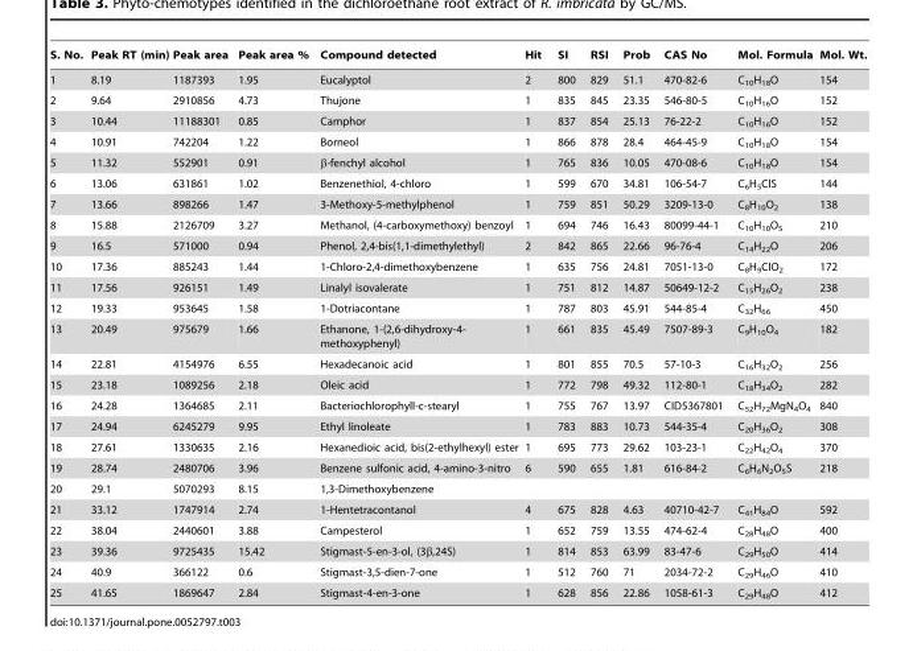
<table><thead><tr><td>S. No.</td><td>Peak RT (min)</td><td>Peak area</td><td>Peak area %</td><td>Compound detected</td><td>Hit</td><td>SI</td><td>RSI</td><td>Prob</td><td>CAS No</td><td>Mol. Formula</td><td>Mol. Wt.</td></tr></thead><tbody><tr><td>1</td><td>8.19</td><td>1187393</td><td>1.95</td><td>Eucalyptol</td><td>2</td><td>800</td><td>829</td><td>51.1</td><td>470-82-6</td><td>C<sub>10</sub>H<sub>18</sub>O</td><td>154</td></tr><tr><td>2</td><td>9.64</td><td>2910856</td><td>4.73</td><td>Thujone</td><td>1</td><td>835</td><td>845</td><td>23.35</td><td>546-80-5</td><td>C<sub>10</sub>H<sub>16</sub>O</td><td>152</td></tr><tr><td>3</td><td>10.44</td><td>11188301</td><td>0.85</td><td>Camphor</td><td>1</td><td>837</td><td>854</td><td>25.13</td><td>76-22-2</td><td>C<sub>10</sub>H<sub>16</sub>O</td><td>152</td></tr><tr><td>4</td><td>10.91</td><td>742204</td><td>1.22</td><td>Borneol</td><td>1</td><td>866</td><td>878</td><td>28.4</td><td>464-45-9</td><td>C<sub>10</sub>H<sub>18</sub>O</td><td>154</td></tr><tr><td>5</td><td>11.32</td><td>552901</td><td>0.91</td><td>β-fenchyl alcohol</td><td>1</td><td>765</td><td>836</td><td>10.05</td><td>470-08-6</td><td>C<sub>10</sub>H<sub>18</sub>O</td><td>154</td></tr><tr><td>6</td><td>13.06</td><td>631861</td><td>1.02</td><td>Benzenethiol, 4-chloro</td><td>1</td><td>599</td><td>670</td><td>34.81</td><td>106-54-7</td><td>C<sub>6</sub>H<sub>5</sub>ClS</td><td>144</td></tr><tr><td>7</td><td>13.66</td><td>898266</td><td>1.47</td><td>3-Methoxy-5-methylphenol</td><td>1</td><td>759</td><td>851</td><td>50.29</td><td>3209-13-0</td><td>C<sub>8</sub>H<sub>10</sub>O<sub>2</sub></td><td>138</td></tr><tr><td>8</td><td>15.88</td><td>2126709</td><td>3.27</td><td>Methanol, (4-carboxymethoxy) benzoyl</td><td>1</td><td>694</td><td>746</td><td>16.43</td><td>80099-44-1</td><td>C<sub>10</sub>H<sub>10</sub>O<sub>5</sub></td><td>210</td></tr><tr><td>9</td><td>16.5</td><td>571000</td><td>0.94</td><td>Phenol, 2,4-bis(1,1-dimethylethyl)</td><td>2</td><td>842</td><td>865</td><td>22.66</td><td>96-76-4</td><td>C<sub>14</sub>H<sub>22</sub>O</td><td>206</td></tr><tr><td>10</td><td>17.36</td><td>885243</td><td>1.44</td><td>1-Chloro-2,4-dimethoxybenzene</td><td>1</td><td>635</td><td>756</td><td>24.81</td><td>7051-13-0</td><td>C<sub>8</sub>H<sub>9</sub>ClO<sub>2</sub></td><td>172</td></tr><tr><td>11</td><td>17.56</td><td>926151</td><td>1.49</td><td>Linalyl isovalerate</td><td>1</td><td>751</td><td>812</td><td>14.87</td><td>50649-12-2</td><td>C<sub>15</sub>H<sub>26</sub>O<sub>2</sub></td><td>238</td></tr><tr><td>12</td><td>19.33</td><td>953645</td><td>1.58</td><td>1-Dotriacontane</td><td>1</td><td>787</td><td>803</td><td>45.91</td><td>544-85-4</td><td>C<sub>32</sub>H<sub>66</sub></td><td>450</td></tr><tr><td>13</td><td>20.49</td><td>975679</td><td>1.66</td><td>Ethanone, 1-(2,6-dihydroxy-4- methoxyphenyl)</td><td>1</td><td>661</td><td>835</td><td>45.49</td><td>7507-89-3</td><td>C<sub>9</sub>H<sub>10</sub>O<sub>4</sub></td><td>182</td></tr><tr><td>14</td><td>22.81</td><td>4154976</td><td>6.55</td><td>Hexadecanoic acid</td><td>1</td><td>801</td><td>855</td><td>70.5</td><td>57-10-3</td><td>C<sub>16</sub>H<sub>32</sub>O<sub>2</sub></td><td>256</td></tr><tr><td>15</td><td>23.18</td><td>1089256</td><td>2.18</td><td>Oleic acid</td><td>1</td><td>772</td><td>798</td><td>49.32</td><td>112-80-1</td><td>C<sub>18</sub>H<sub>34</sub>O<sub>2</sub></td><td>282</td></tr><tr><td>16</td><td>24.28</td><td>1364685</td><td>2.11</td><td>Bacteriochlorophyll-c-stearyl</td><td>1</td><td>755</td><td>767</td><td>13.97</td><td>CID5367801</td><td>C<sub>52</sub>H<sub>72</sub>MgN<sub>4</sub>O<sub>4</sub></td><td>840</td></tr><tr><td>17</td><td>24.94</td><td>6245279</td><td>9.95</td><td>Ethyl linoleate</td><td>1</td><td>783</td><td>883</td><td>10.73</td><td>544-35-4</td><td>C<sub>20</sub>H<sub>36</sub>O<sub>2</sub></td><td>308</td></tr><tr><td>18</td><td>27.61</td><td>1330635</td><td>2.16</td><td>Hexanedioic acid, bis(2-ethylhexyl) ester</td><td>1</td><td>695</td><td>773</td><td>29.62</td><td>103-23-1</td><td>C<sub>22</sub>H<sub>42</sub>O<sub>4</sub></td><td>370</td></tr><tr><td>19</td><td>28.74</td><td>2480706</td><td>3.96</td><td>Benzene sulfonic acid, 4-amino-3-nitro</td><td>6</td><td>590</td><td>655</td><td>1.81</td><td>616-84-2</td><td>C<sub>6</sub>H<sub>6</sub>N<sub>2</sub>O<sub>5</sub>S</td><td>218</td></tr><tr><td>20</td><td>29.1</td><td>5070293</td><td>8.15</td><td>1,3-Dimethoxybenzene</td><td></td><td></td><td></td><td></td><td></td><td></td><td></td></tr><tr><td>21</td><td>33.12</td><td>1747914</td><td>2.74</td><td>1-Hentetracontanol</td><td>4</td><td>675</td><td>828</td><td>4.63</td><td>40710-42-7</td><td>C<sub>41</sub>H<sub>84</sub>O</td><td>592</td></tr><tr><td>22</td><td>38.04</td><td>2440601</td><td>3.88</td><td>Campesterol</td><td>1</td><td>652</td><td>759</td><td>13.55</td><td>474-62-4</td><td>C<sub>28</sub>H<sub>48</sub>O</td><td>400</td></tr><tr><td>23</td><td>39.36</td><td>9725435</td><td>15.42</td><td>Stigmast-5-en-3-ol, (3β,24S)</td><td>1</td><td>814</td><td>853</td><td>63.99</td><td>83-47-6</td><td>C<sub>29</sub>H<sub>50</sub>O</td><td>414</td></tr><tr><td>24</td><td>40.9</td><td>366122</td><td>0.6</td><td>Stigmast-3,5-dien-7-one</td><td>1</td><td>512</td><td>760</td><td>71</td><td>2034-72-2</td><td>C<sub>29</sub>H<sub>46</sub>O</td><td>410</td></tr><tr><td>25</td><td>41.65</td><td>1869647</td><td>2.84</td><td>Stigmast-4-en-3-one</td><td>1</td><td>628</td><td>856</td><td>22.86</td><td>1058-61-3</td><td>C<sub>29</sub>H<sub>48</sub>O</td><td>412</td></tr></tbody></table>